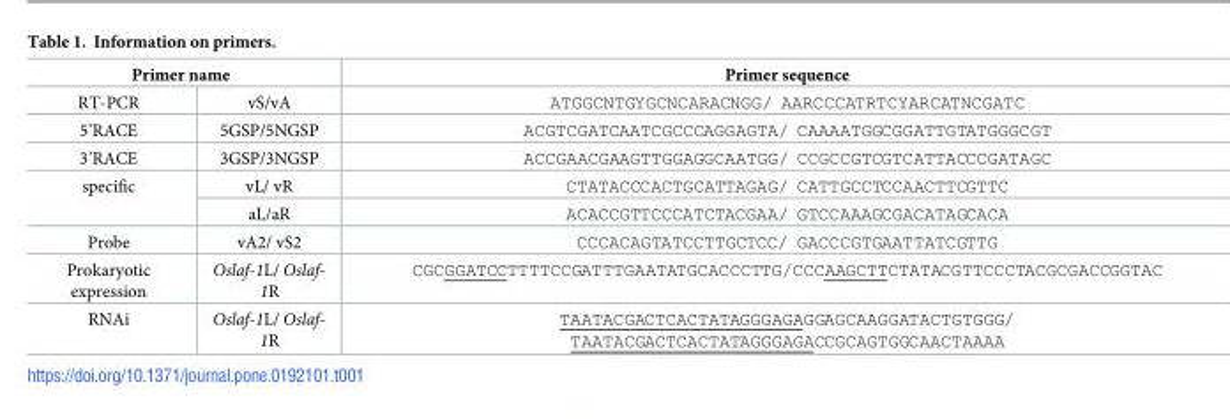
<table><tbody><tr><td colspan="2">Primer name</td><td>Primer sequence</td></tr><tr><td>RT-PCR</td><td>vS/vA</td><td>ATGGCNTGYGCNCARACNGG/ AARCCCATRTCYARCATNCGATC</td></tr><tr><td>5’RACE</td><td>5GSP/5NGSP</td><td>ACGTCGATCAATCGCCCAGGAGTA/ CAAAATGGCGGATTGTATGGGCGT</td></tr><tr><td>3’RACE</td><td>3GSP/3NGSP</td><td>ACCGAACGAAGTTGGAGGCAATGG/ CCGCCGTCGTCATTACCCGATAGC</td></tr><tr><td rowspan="2">specific</td><td>vL/ vR</td><td>CTATACCCACTGCATTAGAG/ CATTGCCTCCAACTTCGTTC</td></tr><tr><td>aL/aR</td><td>ACACCGTTCCCATCTACGAA/ GTCCAAAGCGACATAGCACA</td></tr><tr><td>Probe</td><td>vA2/ vS2</td><td>CCCACAGTATCCTTGCTCC/ GACCCGTGAATTATCGTTG</td></tr><tr><td>Prokaryotic expression</td><td>Oslaf-1L/ Oslaf- 1R</td><td>CGCGGATCCTTTTCCGATTTGAATATGCACCCTTG/CCCAAGCTTCTATACGTTCCCTACGCGACCGGTAC</td></tr><tr><td>RNAi</td><td>Oslaf-1L/ Oslaf- 1R</td><td>TAATACGACTCACTATAGGGAGAGGAGCAAGGATACTGTGGG/ TAATACGACTCACTATAGGGAGACCGCAGTGGCAACTAAAA</td></tr></tbody></table>